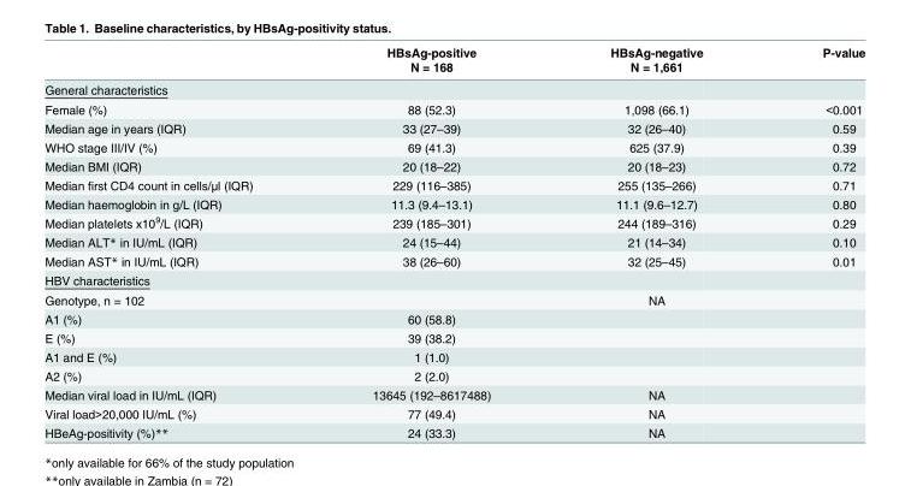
<table><thead><tr><td rowspan="2"></td><td rowspan="2">HBsAg-positive N = 168</td><td rowspan="2">HBsAg-negative N = 1,661</td><td rowspan="2">P-value</td></tr><tr></tr></thead><tbody><tr><td colspan="4">General characteristics</td></tr><tr><td>Female (%)</td><td>88 (52.3)</td><td>1,098 (66.1)</td><td>&lt;0.001</td></tr><tr><td>Median age in years (IQR)</td><td>33 (27–39)</td><td>32 (26–40)</td><td>0.59</td></tr><tr><td>WHO stage III/IV (%)</td><td>69 (41.3)</td><td>625 (37.9)</td><td>0.39</td></tr><tr><td>Median BMI (IQR)</td><td>20 (18–22)</td><td>20 (18–23)</td><td>0.72</td></tr><tr><td>Median first CD4 count in cells/μl (IQR)</td><td>229 (116–385)</td><td>255 (135–266)</td><td>0.71</td></tr><tr><td>Median haemoglobin in g/L (IQR)</td><td>11.3 (9.4–13.1)</td><td>11.1 (9.6–12.7)</td><td>0.80</td></tr><tr><td>Median platelets x10<sup>9</sup>/L (IQR)</td><td>239 (185–301)</td><td>244 (189–316)</td><td>0.29</td></tr><tr><td>Median ALT* in IU/mL (IQR)</td><td>24 (15–44)</td><td>21 (14–34)</td><td>0.10</td></tr><tr><td>Median AST* in IU/mL (IQR)</td><td>38 (26–60)</td><td>32 (25–45)</td><td>0.01</td></tr><tr><td colspan="4">HBV characteristics</td></tr><tr><td>Genotype, n = 102</td><td></td><td>NA</td><td></td></tr><tr><td>A1 (%)</td><td>60 (58.8)</td><td></td><td></td></tr><tr><td>E (%)</td><td>39 (38.2)</td><td></td><td></td></tr><tr><td>A1 and E (%)</td><td>1 (1.0)</td><td></td><td></td></tr><tr><td>A2 (%)</td><td>2 (2.0)</td><td></td><td></td></tr><tr><td>Median viral load in IU/mL (IQR)</td><td>13645 (192–8617488)</td><td>NA</td><td></td></tr><tr><td>Viral load&gt;20,000 IU/mL (%)</td><td>77 (49.4)</td><td>NA</td><td></td></tr><tr><td>HBeAg-positivity (%)**</td><td>24 (33.3)</td><td>NA</td><td></td></tr></tbody></table>